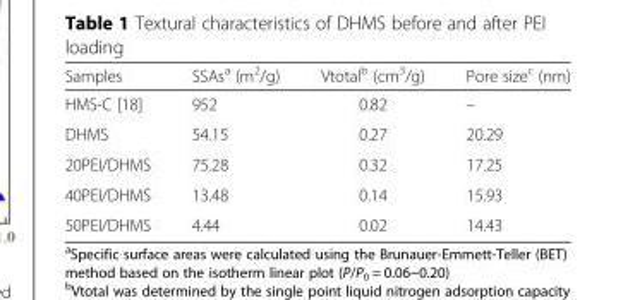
<table><thead><tr><td>Samples</td><td>SSAs<sup>a</sup> (m<sup>2</sup>/g)</td><td>Vtotal<sup>b</sup> (cm<sup>3</sup>/g)</td><td>Pore size<sup>c</sup> (nm)</td></tr></thead><tbody><tr><td>HMS-C [18]</td><td>952</td><td>0.82</td><td>–</td></tr><tr><td>DHMS</td><td>54.15</td><td>0.27</td><td>20.29</td></tr><tr><td>20PEI/DHMS</td><td>75.28</td><td>0.32</td><td>17.25</td></tr><tr><td>40PEI/DHMS</td><td>13.48</td><td>0.14</td><td>15.93</td></tr><tr><td>50PEI/DHMS</td><td>4.44</td><td>0.02</td><td>14.43</td></tr></tbody></table>